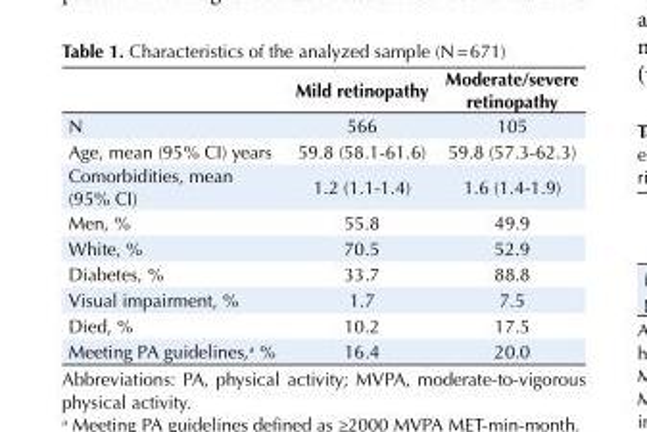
<table><thead><tr><td></td><td>Mild retinopathy</td><td>Moderate/severe retinopathy</td></tr></thead><tbody><tr><td>N</td><td>566</td><td>105</td></tr><tr><td>Age, mean (95% CI) years</td><td>59.8 (58.1-61.6)</td><td>59.8 (57.3-62.3)</td></tr><tr><td>Comorbidities, mean (95% CI)</td><td>1.2 (1.1-1.4)</td><td>1.6 (1.4-1.9)</td></tr><tr><td>Men, %</td><td>55.8</td><td>49.9</td></tr><tr><td>White, %</td><td>70.5</td><td>52.9</td></tr><tr><td>Diabetes, %</td><td>33.7</td><td>88.8</td></tr><tr><td>Visual impairment, %</td><td>1.7</td><td>7.5</td></tr><tr><td>Died, %</td><td>10.2</td><td>17.5</td></tr><tr><td>Meeting PA guidelines,<sup>a</sup> %</td><td>16.4</td><td>20.0</td></tr></tbody></table>